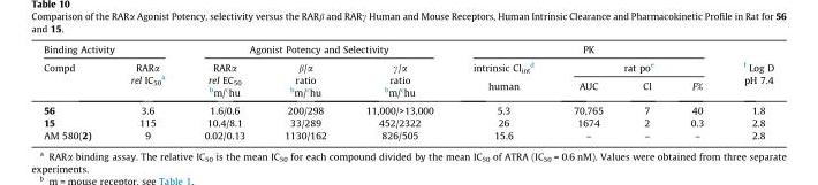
<table><thead><tr><td colspan="2">Binding Activity</td><td colspan="3">Agonist Potency and Selectivity</td><td colspan="4">PK</td><td rowspan="3">f Log D pH 7.4</td></tr><tr><td rowspan="2">Compd</td><td rowspan="2">RARα rel IC<sub>50</sub> <sup>a</sup></td><td rowspan="2">RARα rel EC<sub>50</sub> bm/chu</td><td rowspan="2">β/α ratio bm/chu</td><td rowspan="2">γ/α ratio bm/chu</td><td rowspan="2">intrinsic Cl<sub>int</sub> <sup>d</sup> human</td><td colspan="3">rat po<sup>e</sup></td></tr><tr><td>AUC</td><td>Cl</td><td>F%</td></tr></thead><tbody><tr><td>56</td><td>3.6</td><td>1.6/0.6</td><td>200/298</td><td>11,000/&gt;13,000</td><td>5.3</td><td>70,765</td><td>7</td><td>40</td><td>1.8</td></tr><tr><td>15</td><td>115</td><td>10.4/8.1</td><td>33/289</td><td>452/2322</td><td>26</td><td>1674</td><td>2</td><td>0.3</td><td>2.8</td></tr><tr><td>AM 580(2)</td><td>9</td><td>0.02/0.13</td><td>1130/162</td><td>826/505</td><td>15.6</td><td>–</td><td>–</td><td>–</td><td>2.8</td></tr></tbody></table>